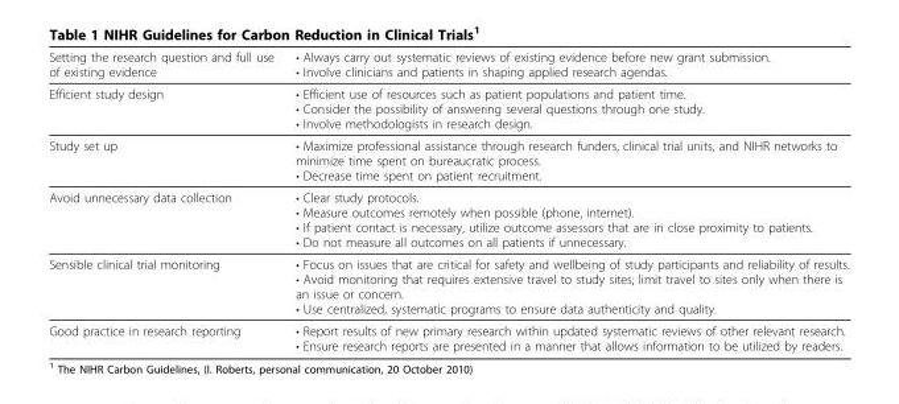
<table><thead><tr><td>Setting the research question and full use of existing evidence</td><td>• Always carry out systematic reviews of existing evidence before new grant submission. • Involve clinicians and patients in shaping applied research agendas.</td></tr></thead><tbody><tr><td>Efficient study design</td><td>• Efficient use of resources such as patient populations and patient time. • Consider the possibility of answering several questions through one study. • Involve methodologists in research design.</td></tr><tr><td>Study set up</td><td>• Maximize professional assistance through research funders, clinical trial units, and NIHR networks to minimize time spent on bureaucratic process. • Decrease time spent on patient recruitment.</td></tr><tr><td>Avoid unnecessary data collection</td><td>• Clear study protocols. • Measure outcomes remotely when possible (phone, internet). • If patient contact is necessary, utilize outcome assessors that are in close proximity to patients. • Do not measure all outcomes on all patients if unnecessary.</td></tr><tr><td>Sensible clinical trial monitoring</td><td>• Focus on issues that are critical for safety and wellbeing of study participants and reliability of results. • Avoid monitoring that requires extensive travel to study sites; limit travel to sites only when there is an issue or concern. • Use centralized, systematic programs to ensure data authenticity and quality.</td></tr><tr><td>Good practice in research reporting</td><td>• Report results of new primary research within updated systematic reviews of other relevant research. • Ensure research reports are presented in a manner that allows information to be utilized by readers.</td></tr></tbody></table>